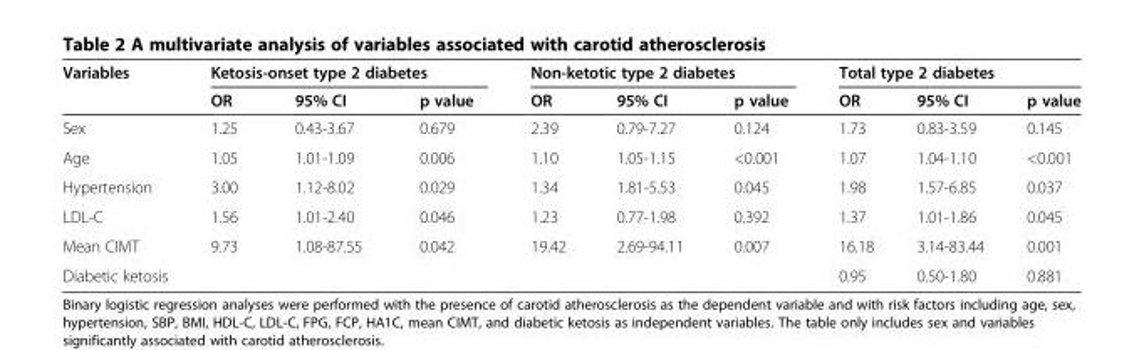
<table><thead><tr><td rowspan="2">Variables</td><td colspan="3">Ketosis-onset type 2 diabetes</td><td colspan="3">Non-ketotic type 2 diabetes</td><td colspan="3">Total type 2 diabetes</td></tr><tr><td>OR</td><td>95% CI</td><td>p value</td><td>OR</td><td>95% CI</td><td>p value</td><td>OR</td><td>95% CI</td><td>p value</td></tr></thead><tbody><tr><td>Sex</td><td>1.25</td><td>0.43-3.67</td><td>0.679</td><td>2.39</td><td>0.79-7.27</td><td>0.124</td><td>1.73</td><td>0.83-3.59</td><td>0.145</td></tr><tr><td>Age</td><td>1.05</td><td>1.01-1.09</td><td>0.006</td><td>1.10</td><td>1.05-1.15</td><td>&lt;0.001</td><td>1.07</td><td>1.04-1.10</td><td>&lt;0.001</td></tr><tr><td>Hypertension</td><td>3.00</td><td>1.12-8.02</td><td>0.029</td><td>1.34</td><td>1.81-5.53</td><td>0.045</td><td>1.98</td><td>1.57-6.85</td><td>0.037</td></tr><tr><td>LDL-C</td><td>1.56</td><td>1.01-2.40</td><td>0.046</td><td>1.23</td><td>0.77-1.98</td><td>0.392</td><td>1.37</td><td>1.01-1.86</td><td>0.045</td></tr><tr><td>Mean CIMT</td><td>9.73</td><td>1.08-87.55</td><td>0.042</td><td>19.42</td><td>2.69-94.11</td><td>0.007</td><td>16.18</td><td>3.14-83.44</td><td>0.001</td></tr><tr><td>Diabetic ketosis</td><td></td><td></td><td></td><td></td><td></td><td></td><td>0.95</td><td>0.50-1.80</td><td>0.881</td></tr></tbody></table>